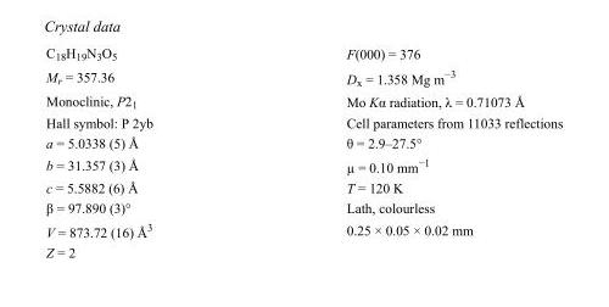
<table><tbody><tr><td>C<sub>18</sub>H<sub>19</sub>N<sub>3</sub>O<sub>5</sub></td><td>F(000) = 376</td></tr><tr><td>M<sub>r</sub> = 357.36</td><td>D<sub>x</sub> = 1.358 Mg m<sup>−3</sup></td></tr><tr><td>Monoclinic, P2<sub>1</sub></td><td>Mo Kα radiation, λ = 0.71073 Å</td></tr><tr><td>Hall symbol: P 2yb</td><td>Cell parameters from 11033 reflections</td></tr><tr><td>a = 5.0338 (5) Å</td><td>θ = 2.9–27.5°</td></tr><tr><td>b = 31.357 (3) Å</td><td>µ = 0.10 mm<sup>−1</sup></td></tr><tr><td>c = 5.5882 (6) Å</td><td>T = 120 K</td></tr><tr><td>β = 97.890 (3)°</td><td>Lath, colourless</td></tr><tr><td>V = 873.72 (16) Å<sup>3</sup></td><td>0.25 × 0.05 × 0.02 mm</td></tr><tr><td>Z = 2</td><td></td></tr></tbody></table>